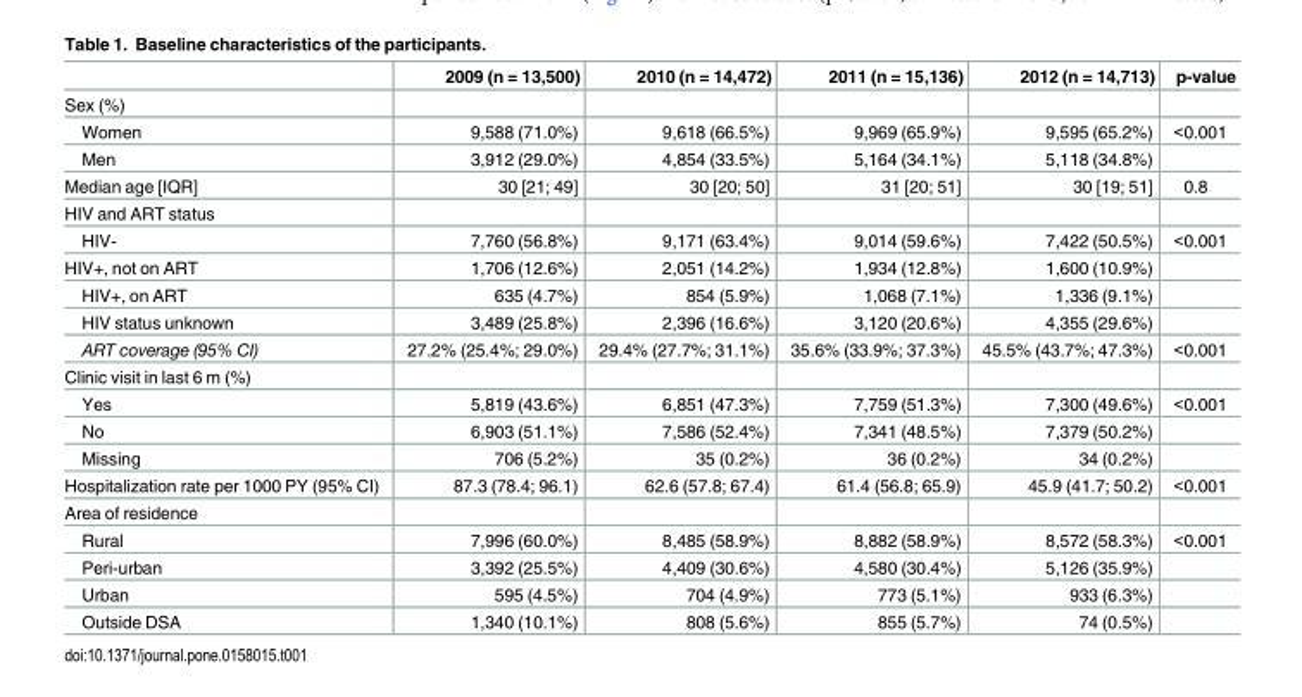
<table><thead><tr><td></td><td>2009 (n = 13,500)</td><td>2010 (n = 14,472)</td><td>2011 (n = 15,136)</td><td>2012 (n = 14,713)</td><td>p-value</td></tr></thead><tbody><tr><td colspan="6">Sex (%)</td></tr><tr><td>Women</td><td>9,588 (71.0%)</td><td>9,618 (66.5%)</td><td>9,969 (65.9%)</td><td>9,595 (65.2%)</td><td>&lt;0.001</td></tr><tr><td>Men</td><td>3,912 (29.0%)</td><td>4,854 (33.5%)</td><td>5,164 (34.1%)</td><td>5,118 (34.8%)</td><td></td></tr><tr><td>Median age [IQR]</td><td>30 [21; 49]</td><td>30 [20; 50]</td><td>31 [20; 51]</td><td>30 [19; 51]</td><td>0.8</td></tr><tr><td colspan="6">HIV and ART status</td></tr><tr><td>HIV-</td><td>7,760 (56.8%)</td><td>9,171 (63.4%)</td><td>9,014 (59.6%)</td><td>7,422 (50.5%)</td><td>&lt;0.001</td></tr><tr><td>HIV+, not on ART</td><td>1,706 (12.6%)</td><td>2,051 (14.2%)</td><td>1,934 (12.8%)</td><td>1,600 (10.9%)</td><td></td></tr><tr><td>HIV+, on ART</td><td>635 (4.7%)</td><td>854 (5.9%)</td><td>1,068 (7.1%)</td><td>1,336 (9.1%)</td><td></td></tr><tr><td>HIV status unknown</td><td>3,489 (25.8%)</td><td>2,396 (16.6%)</td><td>3,120 (20.6%)</td><td>4,355 (29.6%)</td><td></td></tr><tr><td>ART coverage (95% CI)</td><td>27.2% (25.4%; 29.0%)</td><td>29.4% (27.7%; 31.1%)</td><td>35.6% (33.9%; 37.3%)</td><td>45.5% (43.7%; 47.3%)</td><td>&lt;0.001</td></tr><tr><td colspan="6">Clinic visit in last 6 m (%)</td></tr><tr><td>Yes</td><td>5,819 (43.6%)</td><td>6,851 (47.3%)</td><td>7,759 (51.3%)</td><td>7,300 (49.6%)</td><td>&lt;0.001</td></tr><tr><td>No</td><td>6,903 (51.1%)</td><td>7,586 (52.4%)</td><td>7,341 (48.5%)</td><td>7,379 (50.2%)</td><td></td></tr><tr><td>Missing</td><td>706 (5.2%)</td><td>35 (0.2%)</td><td>36 (0.2%)</td><td>34 (0.2%)</td><td></td></tr><tr><td>Hospitalization rate per 1000 PY (95% CI)</td><td>87.3 (78.4; 96.1)</td><td>62.6 (57.8; 67.4)</td><td>61.4 (56.8; 65.9)</td><td>45.9 (41.7; 50.2)</td><td>&lt;0.001</td></tr><tr><td colspan="6">Area of residence</td></tr><tr><td>Rural</td><td>7,996 (60.0%)</td><td>8,485 (58.9%)</td><td>8,882 (58.9%)</td><td>8,572 (58.3%)</td><td>&lt;0.001</td></tr><tr><td>Peri-urban</td><td>3,392 (25.5%)</td><td>4,409 (30.6%)</td><td>4,580 (30.4%)</td><td>5,126 (35.9%)</td><td></td></tr><tr><td>Urban</td><td>595 (4.5%)</td><td>704 (4.9%)</td><td>773 (5.1%)</td><td>933 (6.3%)</td><td></td></tr><tr><td>Outside DSA</td><td>1,340 (10.1%)</td><td>808 (5.6%)</td><td>855 (5.7%)</td><td>74 (0.5%)</td><td></td></tr></tbody></table>